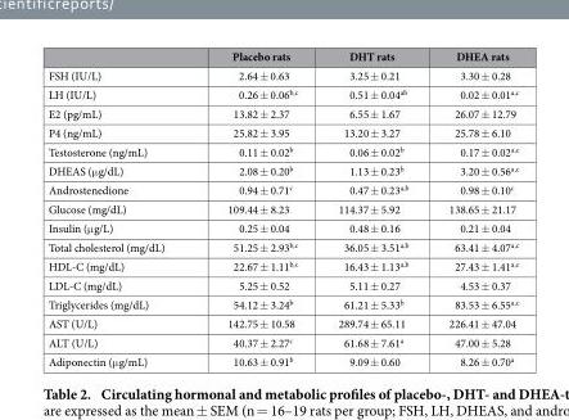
<table><thead><tr><td></td><td>Placebo rats</td><td>DHT rats</td><td>DHEA rats</td></tr></thead><tbody><tr><td>FSH (IU/L)</td><td>2.64 ± 0.63</td><td>3.25 ± 0.21</td><td>3.30 ± 0.28</td></tr><tr><td>LH (IU/L)</td><td>0.26 ± 0.06<sup>b,c</sup></td><td>0.51 ± 0.04<sup>ab</sup></td><td>0.02 ± 0.01<sup>a,c</sup></td></tr><tr><td>E2 (pg/mL)</td><td>13.82 ± 2.37</td><td>6.55 ± 1.67</td><td>26.07 ± 12.79</td></tr><tr><td>P4 (ng/mL)</td><td>25.82 ± 3.95</td><td>13.20 ± 3.27</td><td>25.78 ± 6.10</td></tr><tr><td>Testosterone (ng/mL)</td><td>0.11 ± 0.02<sup>b</sup></td><td>0.06 ± 0.02<sup>b</sup></td><td>0.17 ± 0.02<sup>a,c</sup></td></tr><tr><td>DHEAS (μ g/dL)</td><td>2.08 ± 0.20<sup>b</sup></td><td>1.13 ± 0.23<sup>b</sup></td><td>3.20 ± 0.56<sup>a,c</sup></td></tr><tr><td>Androstenedione</td><td>0.94 ± 0.71<sup>c</sup></td><td>0.47 ± 0.23<sup>a,b</sup></td><td>0.98 ± 0.10<sup>c</sup></td></tr><tr><td>Glucose (mg/dL)</td><td>109.44 ± 8.23</td><td>114.37 ± 5.92</td><td>138.65 ± 21.17</td></tr><tr><td>Insulin (μ g/L)</td><td>0.25 ± 0.04</td><td>0.48 ± 0.16</td><td>0.21 ± 0.04</td></tr><tr><td>Total cholesterol (mg/dL)</td><td>51.25 ± 2.93<sup>b,c</sup></td><td>36.05 ± 3.51<sup>a,b</sup></td><td>63.41 ± 4.07<sup>a,c</sup></td></tr><tr><td>HDL-C (mg/dL)</td><td>22.67 ± 1.11<sup>b,c</sup></td><td>16.43 ± 1.13<sup>a,b</sup></td><td>27.43 ± 1.41<sup>a,c</sup></td></tr><tr><td>LDL-C (mg/dL)</td><td>5.25 ± 0.52</td><td>5.11 ± 0.27</td><td>4.53 ± 0.37</td></tr><tr><td>Triglycerides (mg/dL)</td><td>54.12 ± 3.24<sup>b</sup></td><td>61.21 ± 5.33<sup>b</sup></td><td>83.53 ± 6.55<sup>a,c</sup></td></tr><tr><td>AST (U/L)</td><td>142.75 ± 10.58</td><td>289.74 ± 65.11</td><td>226.41 ± 47.04</td></tr><tr><td>ALT (U/L)</td><td>40.37 ± 2.27<sup>c</sup></td><td>61.68 ± 7.61<sup>a</sup></td><td>47.00 ± 5.28</td></tr><tr><td>Adiponectin (μ g/mL)</td><td>10.63 ± 0.91<sup>b</sup></td><td>9.09 ± 0.60</td><td>8.26 ± 0.70<sup>a</sup></td></tr></tbody></table>